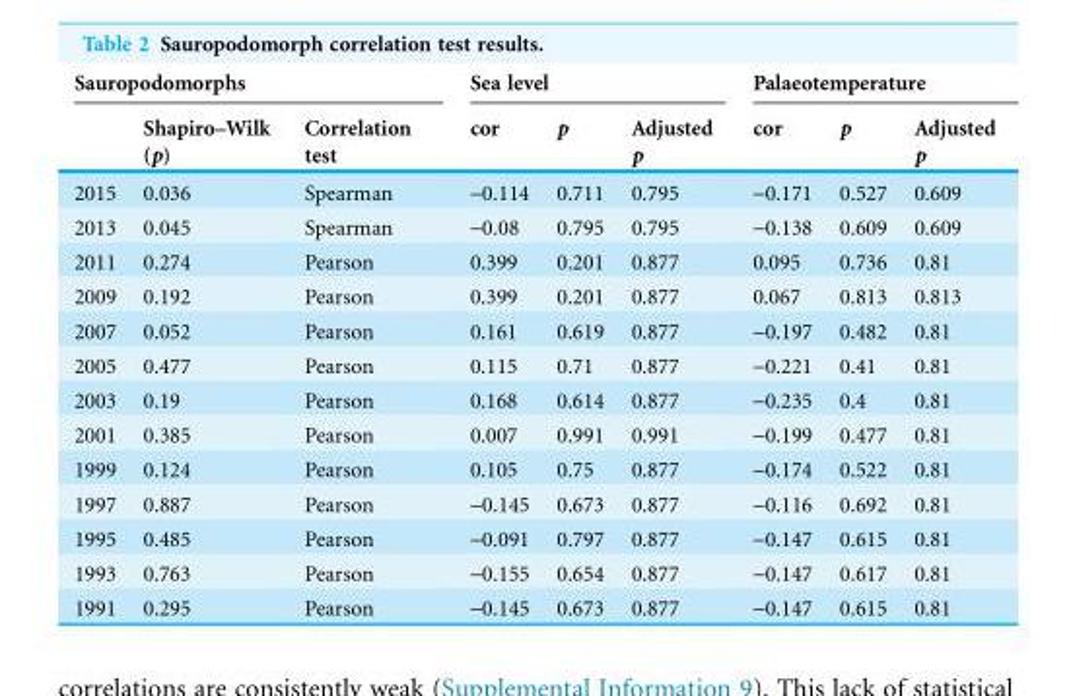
<table><thead><tr><td colspan="3">Sauropodomorphs</td><td colspan="3">Sea level</td><td colspan="3">Palaeotemperature</td></tr><tr><td></td><td>Shapiro–Wilk (p)</td><td>Correlation test</td><td>cor</td><td>p</td><td>Adjusted p</td><td>cor</td><td>p</td><td>Adjusted p</td></tr></thead><tbody><tr><td>2015</td><td>0.036</td><td>Spearman</td><td>-0.114</td><td>0.711</td><td>0.795</td><td>-0.171</td><td>0.527</td><td>0.609</td></tr><tr><td>2013</td><td>0.045</td><td>Spearman</td><td>-0.08</td><td>0.795</td><td>0.795</td><td>-0.138</td><td>0.609</td><td>0.609</td></tr><tr><td>2011</td><td>0.274</td><td>Pearson</td><td>0.399</td><td>0.201</td><td>0.877</td><td>0.095</td><td>0.736</td><td>0.81</td></tr><tr><td>2009</td><td>0.192</td><td>Pearson</td><td>0.399</td><td>0.201</td><td>0.877</td><td>0.067</td><td>0.813</td><td>0.813</td></tr><tr><td>2007</td><td>0.052</td><td>Pearson</td><td>0.161</td><td>0.619</td><td>0.877</td><td>-0.197</td><td>0.482</td><td>0.81</td></tr><tr><td>2005</td><td>0.477</td><td>Pearson</td><td>0.115</td><td>0.71</td><td>0.877</td><td>-0.221</td><td>0.41</td><td>0.81</td></tr><tr><td>2003</td><td>0.19</td><td>Pearson</td><td>0.168</td><td>0.614</td><td>0.877</td><td>-0.235</td><td>0.4</td><td>0.81</td></tr><tr><td>2001</td><td>0.385</td><td>Pearson</td><td>0.007</td><td>0.991</td><td>0.991</td><td>-0.199</td><td>0.477</td><td>0.81</td></tr><tr><td>1999</td><td>0.124</td><td>Pearson</td><td>0.105</td><td>0.75</td><td>0.877</td><td>-0.174</td><td>0.522</td><td>0.81</td></tr><tr><td>1997</td><td>0.887</td><td>Pearson</td><td>-0.145</td><td>0.673</td><td>0.877</td><td>-0.116</td><td>0.692</td><td>0.81</td></tr><tr><td>1995</td><td>0.485</td><td>Pearson</td><td>-0.091</td><td>0.797</td><td>0.877</td><td>-0.147</td><td>0.615</td><td>0.81</td></tr><tr><td>1993</td><td>0.763</td><td>Pearson</td><td>-0.155</td><td>0.654</td><td>0.877</td><td>-0.147</td><td>0.617</td><td>0.81</td></tr><tr><td>1991</td><td>0.295</td><td>Pearson</td><td>-0.145</td><td>0.673</td><td>0.877</td><td>-0.147</td><td>0.615</td><td>0.81</td></tr></tbody></table>